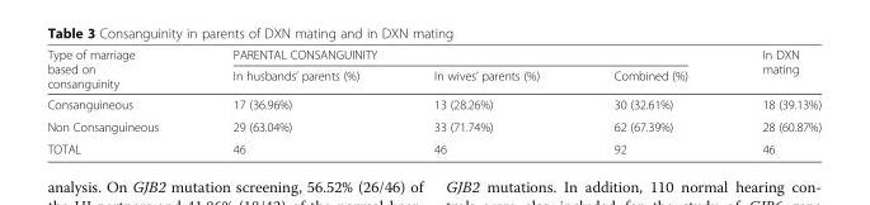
<table><thead><tr><td rowspan="2">Type of marriage based on consanguinity</td><td colspan="3">PARENTAL CONSANGUINITY</td><td rowspan="2">In DXN mating</td></tr><tr><td>In husbands’ parents (%)</td><td>In wives’ parents (%)</td><td>Combined (%)</td></tr></thead><tbody><tr><td>Consanguineous</td><td>17 (36.96%)</td><td>13 (28.26%)</td><td>30 (32.61%)</td><td>18 (39.13%)</td></tr><tr><td>Non Consanguineous</td><td>29 (63.04%)</td><td>33 (71.74%)</td><td>62 (67.39%)</td><td>28 (60.87%)</td></tr><tr><td>TOTAL</td><td>46</td><td>46</td><td>92</td><td>46</td></tr></tbody></table>